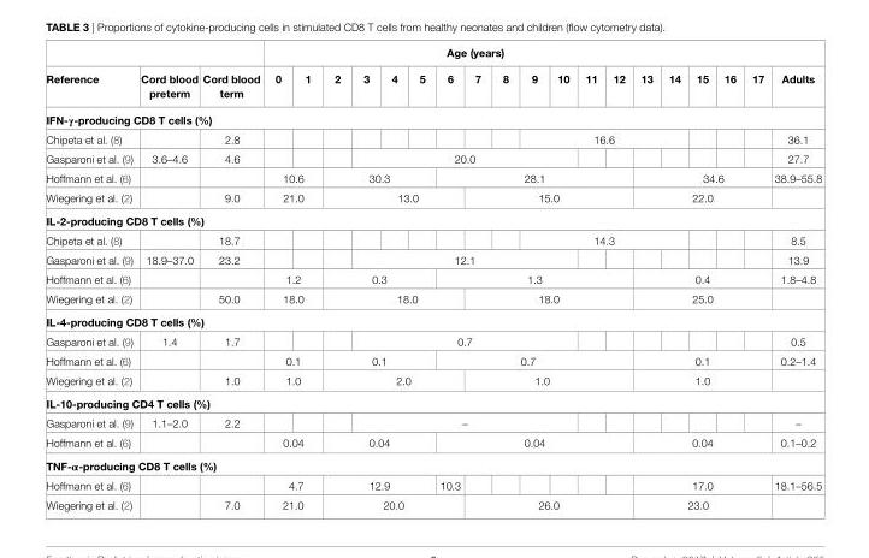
<table><thead><tr><td rowspan="2">Reference</td><td rowspan="2">cord blood preterm</td><td rowspan="2">cord blood term</td><td colspan="19">age (years)</td></tr><tr><td>0</td><td>1</td><td>2</td><td>3</td><td>4</td><td>5</td><td>6</td><td>7</td><td>8</td><td>9</td><td>10</td><td>11</td><td>12</td><td>13</td><td>14</td><td>15</td><td>16</td><td>17</td><td>adults</td></tr></thead><tbody><tr><td colspan="22">iFN-γ-producing cD8 t cells (%)</td></tr><tr><td>Chipeta et al. (8)</td><td></td><td>2.8</td><td></td><td></td><td></td><td></td><td></td><td></td><td></td><td></td><td></td><td colspan="6">16.6</td><td></td><td></td><td></td><td>36.1</td></tr><tr><td>Gasparoni et al. (9)</td><td>3.6–4.6</td><td>4.6</td><td></td><td></td><td></td><td colspan="8">20.0</td><td></td><td></td><td></td><td></td><td></td><td></td><td></td><td>27.7</td></tr><tr><td>Hoffmann et al. (6)</td><td></td><td></td><td colspan="2">10.6</td><td colspan="4">30.3</td><td colspan="7">28.1</td><td colspan="5">34.6</td><td>38.9–55.8</td></tr><tr><td>Wiegering et al. (2)</td><td></td><td>9.0</td><td colspan="2">21.0</td><td colspan="5">13.0</td><td colspan="6">15.0</td><td colspan="5">22.0</td><td></td></tr><tr><td colspan="22">iL-2-producing cD8 t cells (%)</td></tr><tr><td>Chipeta et al. (8)</td><td></td><td>18.7</td><td></td><td></td><td></td><td></td><td></td><td></td><td></td><td></td><td></td><td colspan="6">14.3</td><td></td><td></td><td></td><td>8.5</td></tr><tr><td>Gasparoni et al. (9)</td><td>18.9–37.0</td><td>23.2</td><td></td><td></td><td></td><td colspan="8">12.1</td><td></td><td></td><td></td><td></td><td></td><td></td><td></td><td>13.9</td></tr><tr><td>Hoffmann et al. (6)</td><td></td><td></td><td colspan="2">1.2</td><td colspan="4">0.3</td><td colspan="7">1.3</td><td colspan="5">0.4</td><td>1.8–4.8</td></tr><tr><td>Wiegering et al. (2)</td><td></td><td>50.0</td><td colspan="2">18.0</td><td colspan="5">18.0</td><td colspan="6">18.0</td><td colspan="5">25.0</td><td></td></tr><tr><td colspan="22">iL-4-producing cD8 t cells (%)</td></tr><tr><td>Gasparoni et al. (9)</td><td>1.4</td><td>1.7</td><td></td><td></td><td></td><td colspan="8">0.7</td><td></td><td></td><td></td><td></td><td></td><td></td><td></td><td>0.5</td></tr><tr><td>Hoffmann et al. (6)</td><td></td><td></td><td colspan="2">0.1</td><td colspan="4">0.1</td><td colspan="7">0.7</td><td colspan="5">0.1</td><td>0.2–1.4</td></tr><tr><td>Wiegering et al. (2)</td><td></td><td>1.0</td><td colspan="2">1.0</td><td colspan="5">2.0</td><td colspan="6">1.0</td><td colspan="5">1.0</td><td></td></tr><tr><td colspan="22">iL-10-producing cD4 t cells (%)</td></tr><tr><td>Gasparoni et al. (9)</td><td>1.1–2.0</td><td>2.2</td><td></td><td></td><td></td><td colspan="8">–</td><td></td><td></td><td></td><td></td><td></td><td></td><td></td><td>–</td></tr><tr><td>Hoffmann et al. (6)</td><td></td><td></td><td colspan="2">0.04</td><td colspan="4">0.04</td><td colspan="7">0.04</td><td colspan="5">0.04</td><td>0.1–0.2</td></tr><tr><td colspan="22">tNF-α-producing cD8 t cells (%)</td></tr><tr><td>Hoffmann et al. (6)</td><td></td><td></td><td colspan="2">4.7</td><td colspan="4">12.9</td><td>10.3</td><td></td><td></td><td></td><td></td><td></td><td></td><td colspan="5">17.0</td><td>18.1–56.5</td></tr><tr><td>Wiegering et al. (2)</td><td></td><td>7.0</td><td colspan="2">21.0</td><td colspan="5">20.0</td><td colspan="6">26.0</td><td colspan="5">23.0</td><td></td></tr></tbody></table>